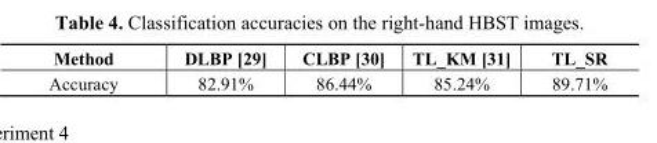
<table><thead><tr><td>Method</td><td>DLBP [29]</td><td>CLBP [30]</td><td>TL_KM [31]</td><td>TL_SR</td></tr></thead><tbody><tr><td>Accuracy</td><td>82.91%</td><td>86.44%</td><td>85.24%</td><td>89.71%</td></tr></tbody></table>